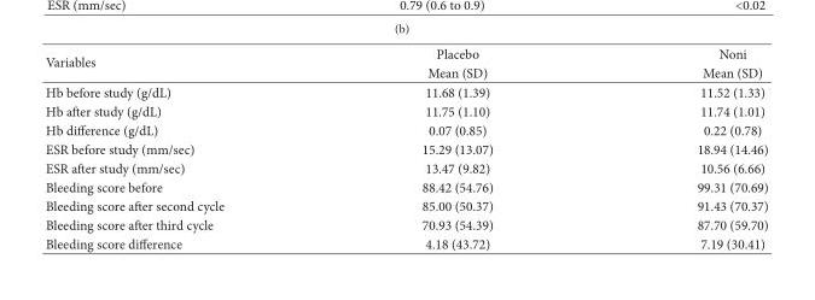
<table><thead><tr><td rowspan="2">Variables</td><td rowspan="2">Placebo Mean (SD)</td><td rowspan="2">Noni Mean (SD)</td></tr><tr></tr></thead><tbody><tr><td>Hb before study (g/dL)</td><td>11.68 (1.39)</td><td>11.52 (1.33)</td></tr><tr><td>Hb aer study (g/dL)</td><td>11.75 (1.10)</td><td>11.74 (1.01)</td></tr><tr><td>Hb difference (g/dL)</td><td>0.07 (0.85)</td><td>0.22 (0.78)</td></tr><tr><td>ESR before study (mm/sec)</td><td>15.29 (13.07)</td><td>18.94 (14.46)</td></tr><tr><td>ESR aer study (mm/sec)</td><td>13.47 (9.82)</td><td>10.56 (6.66)</td></tr><tr><td>Bleeding score before</td><td>88.42 (54.76)</td><td>99.31 (70.69)</td></tr><tr><td>Bleeding score aer second cycle</td><td>85.00 (50.37)</td><td>91.43 (70.37)</td></tr><tr><td>Bleeding score aer third cycle</td><td>70.93 (54.39)</td><td>87.70 (59.70)</td></tr><tr><td>Bleeding score difference</td><td>4.18 (43.72)</td><td>7.19 (30.41)</td></tr></tbody></table>